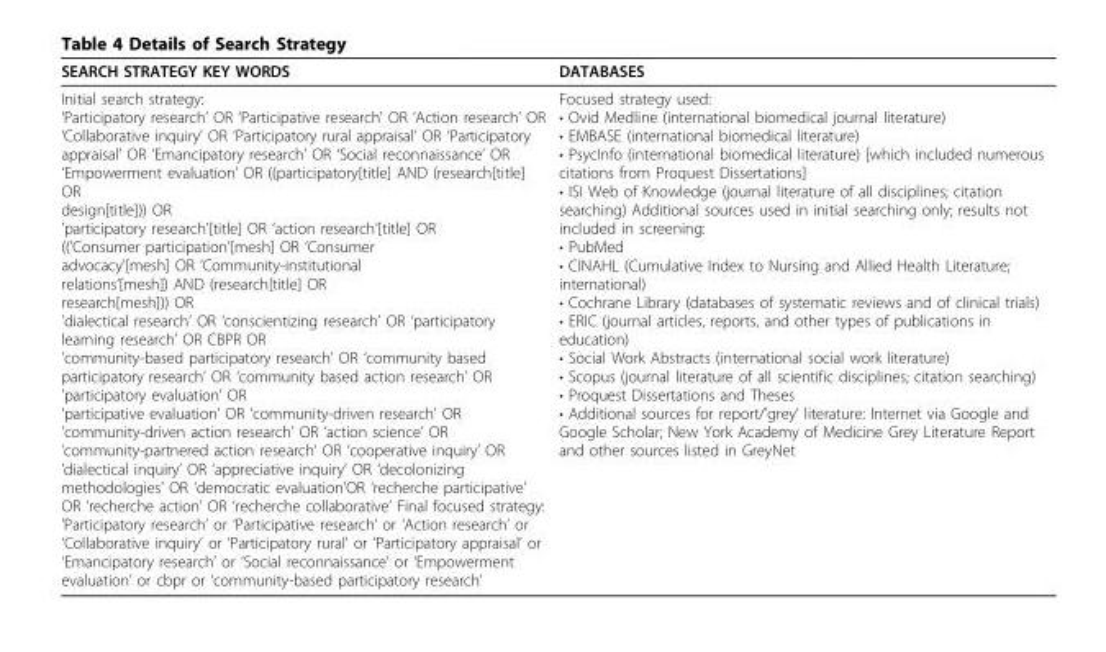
<table><thead><tr><td>SEARCH STRATEGY KEY WORDS</td><td>DATABASES</td></tr></thead><tbody><tr><td>Initial search strategy: ‘Participatory research’ OR ‘Participative research’ OR ‘Action research’ OR ‘Collaborative inquiry’ OR ‘Participatory rural appraisal’ OR ‘Participatory appraisal’ OR ‘Emancipatory research’ OR ‘Social reconnaissance’ OR ‘Empowerment evaluation’ OR ((participatory[title] AND (research[title] OR design[title])) OR ’participatory research’[title] OR ‘action research’[title] OR ((’Consumer participation’[mesh] OR ‘Consumer advocacy’[mesh] OR ‘Community-institutional relations’[mesh]) AND (research[title] OR research[mesh])) OR ’dialectical research’ OR ‘conscientizing research’ OR ‘participatory learning research’ OR CBPR OR ’community-based participatory research’ OR ‘community based participatory research’ OR ‘community based action research’ OR ’participatory evaluation’ OR ’participative evaluation’ OR ‘community-driven research’ OR ’community-driven action research’ OR ‘action science’ OR ’community-partnered action research’ OR ‘cooperative inquiry’ OR ’dialectical inquiry’ OR ‘appreciative inquiry’ OR ‘decolonizing methodologies’ OR ‘democratic evaluation’OR ‘recherche participative’ OR ‘recherche action’ OR ‘recherche collaborative’ Final focused strategy: ’Participatory research’ or ‘Participative research’ or ‘Action research’ or ‘Collaborative inquiry’ or ‘Participatory rural’ or ‘Participatory appraisal’ or ‘Emancipatory research’ or ‘Social reconnaissance’ or ‘Empowerment evaluation’ or cbpr or ‘community-based participatory research’</td><td>Focused strategy used: • Ovid Medline (international biomedical journal literature) • EMBASE (international biomedical literature) • PsycInfo (international biomedical literature) [which included numerous citations from Proquest Dissertations] • ISI Web of Knowledge (journal literature of all disciplines; citation searching) Additional sources used in initial searching only; results not included in screening: • PubMed • CINAHL (Cumulative Index to Nursing and Allied Health Literature; international) • Cochrane Library (databases of systematic reviews and of clinical trials) • ERIC (journal articles, reports, and other types of publications in education) • Social Work Abstracts (international social work literature) • Scopus (journal literature of all scientific disciplines; citation searching) • Proquest Dissertations and Theses • Additional sources for report/’grey’ literature: Internet via Google and Google Scholar; New York Academy of Medicine Grey Literature Report and other sources listed in GreyNet</td></tr></tbody></table>